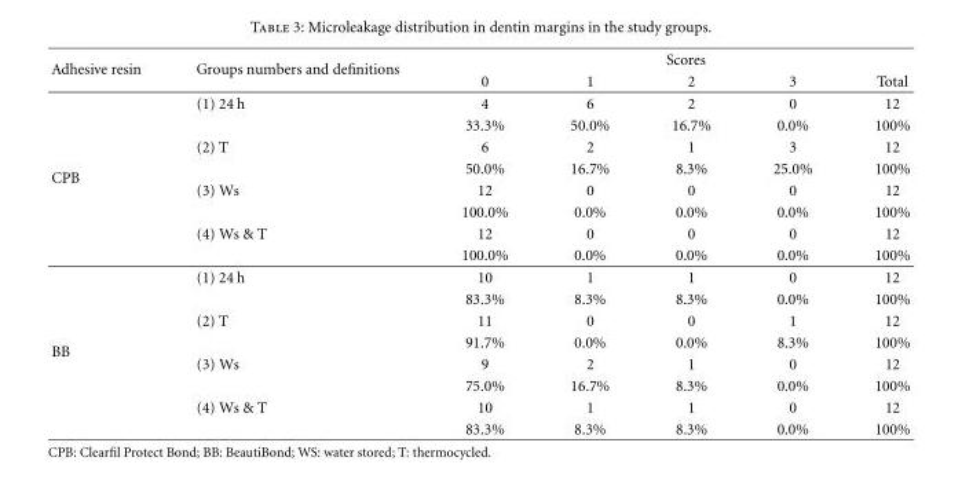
<table><thead><tr><td rowspan="2">Adhesive resin</td><td rowspan="2">Groups numbers and definitions</td><td colspan="5">Scores</td></tr><tr><td>0</td><td>1</td><td>2</td><td>3</td><td>Total</td></tr></thead><tbody><tr><td rowspan="8">CPB</td><td>(1) 24 h</td><td>4</td><td>6</td><td>2</td><td>0</td><td>12</td></tr><tr><td></td><td>33.3%</td><td>50.0%</td><td>16.7%</td><td>0.0%</td><td>100%</td></tr><tr><td>(2) T</td><td>6</td><td>2</td><td>1</td><td>3</td><td>12</td></tr><tr><td></td><td>50.0%</td><td>16.7%</td><td>8.3%</td><td>25.0%</td><td>100%</td></tr><tr><td>(3) Ws</td><td>12</td><td>0</td><td>0</td><td>0</td><td>12</td></tr><tr><td></td><td>100.0%</td><td>0.0%</td><td>0.0%</td><td>0.0%</td><td>100%</td></tr><tr><td>(4) Ws &amp; T</td><td>12</td><td>0</td><td>0</td><td>0</td><td>12</td></tr><tr><td></td><td>100.0%</td><td>0.0%</td><td>0.0%</td><td>0.0%</td><td>100%</td></tr><tr><td rowspan="8">BB</td><td>(1) 24 h</td><td>10</td><td>1</td><td>1</td><td>0</td><td>12</td></tr><tr><td></td><td>83.3%</td><td>8.3%</td><td>8.3%</td><td>0.0%</td><td>100%</td></tr><tr><td>(2) T</td><td>11</td><td>0</td><td>0</td><td>1</td><td>12</td></tr><tr><td></td><td>91.7%</td><td>0.0%</td><td>0.0%</td><td>8.3%</td><td>100%</td></tr><tr><td>(3) Ws</td><td>9</td><td>2</td><td>1</td><td>0</td><td>12</td></tr><tr><td></td><td>75.0%</td><td>16.7%</td><td>8.3%</td><td>0.0%</td><td>100%</td></tr><tr><td>(4) Ws &amp; T</td><td>10</td><td>1</td><td>1</td><td>0</td><td>12</td></tr><tr><td></td><td>83.3%</td><td>8.3%</td><td>8.3%</td><td>0.0%</td><td>100%</td></tr></tbody></table>